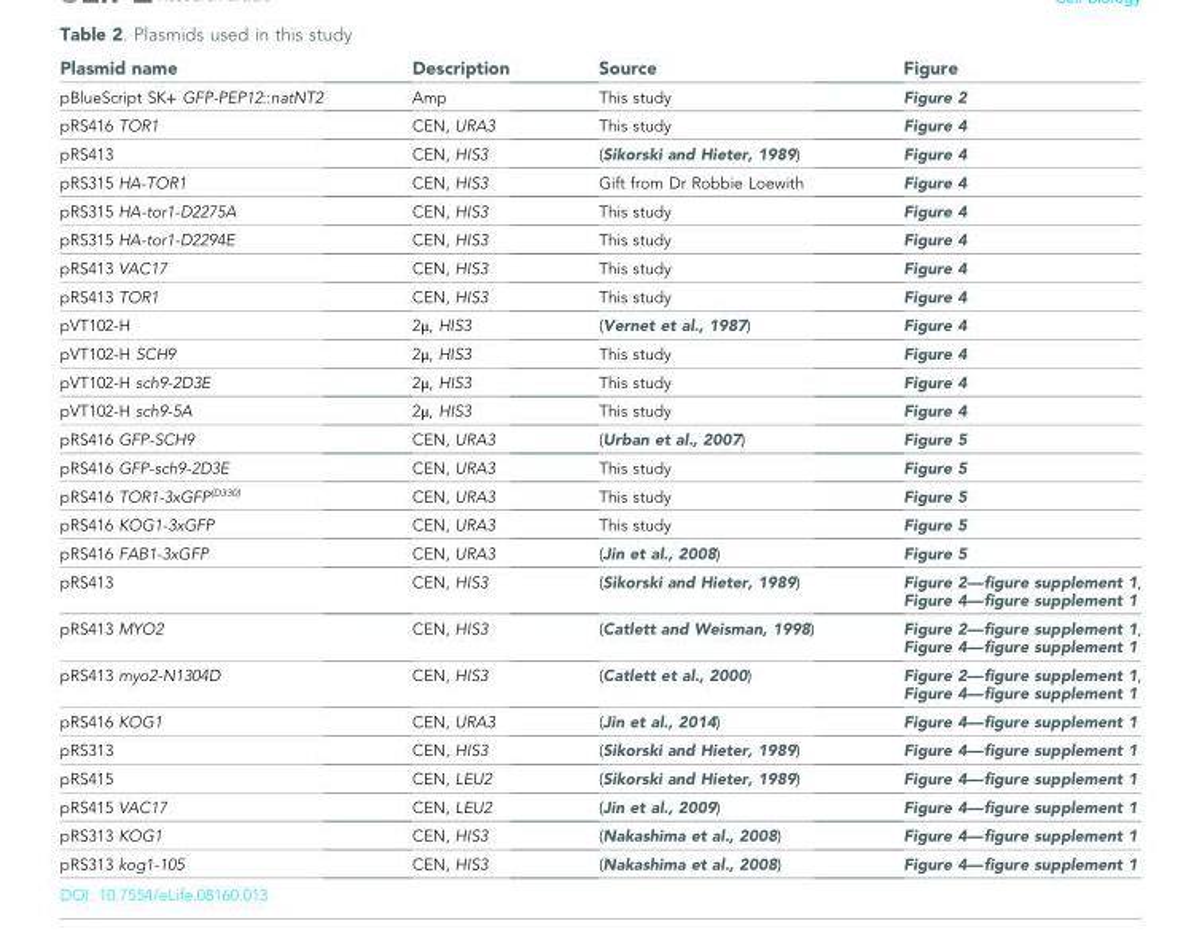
<table><thead><tr><td>Plasmid name</td><td>Description</td><td>Source</td><td>Figure</td></tr></thead><tbody><tr><td>pBlueScript SK+ GFP-PEP12::natNT2</td><td>Amp</td><td>This study</td><td>Figure 2</td></tr><tr><td>pRS416 TOR1</td><td>CEN, URA3</td><td>This study</td><td>Figure 4</td></tr><tr><td>pRS413</td><td>CEN, HIS3</td><td>(Sikorski and Hieter, 1989)</td><td>Figure 4</td></tr><tr><td>pRS315 HA-TOR1</td><td>CEN, HIS3</td><td>Gift from Dr Robbie Loewith</td><td>Figure 4</td></tr><tr><td>pRS315 HA-tor1-D2275A</td><td>CEN, HIS3</td><td>This study</td><td>Figure 4</td></tr><tr><td>pRS315 HA-tor1-D2294E</td><td>CEN, HIS3</td><td>This study</td><td>Figure 4</td></tr><tr><td>pRS413 VAC17</td><td>CEN, HIS3</td><td>This study</td><td>Figure 4</td></tr><tr><td>pRS413 TOR1</td><td>CEN, HIS3</td><td>This study</td><td>Figure 4</td></tr><tr><td>pVT102-H</td><td>2μ, HIS3</td><td>(Vernet et al., 1987)</td><td>Figure 4</td></tr><tr><td>pVT102-H SCH9</td><td>2μ, HIS3</td><td>This study</td><td>Figure 4</td></tr><tr><td>pVT102-H sch9-2D3E</td><td>2μ, HIS3</td><td>This study</td><td>Figure 4</td></tr><tr><td>pVT102-H sch9-5A</td><td>2μ, HIS3</td><td>This study</td><td>Figure 4</td></tr><tr><td>pRS416 GFP-SCH9</td><td>CEN, URA3</td><td>(Urban et al., 2007)</td><td>Figure 5</td></tr><tr><td>pRS416 GFP-sch9-2D3E</td><td>CEN, URA3</td><td>This study</td><td>Figure 5</td></tr><tr><td>pRS416 TOR1-3xGFP<sup>(D330)</sup></td><td>CEN, URA3</td><td>This study</td><td>Figure 5</td></tr><tr><td>pRS416 KOG1-3xGFP</td><td>CEN, URA3</td><td>This study</td><td>Figure 5</td></tr><tr><td>pRS416 FAB1-3xGFP</td><td>CEN, URA3</td><td>(Jin et al., 2008)</td><td>Figure 5</td></tr><tr><td>pRS413</td><td>CEN, HIS3</td><td>(Sikorski and Hieter, 1989)</td><td>Figure 2—figure supplement 1, Figure 4—figure supplement 1</td></tr><tr><td>pRS413 MYO2</td><td>CEN, HIS3</td><td>(Catlett and Weisman, 1998)</td><td>Figure 2—figure supplement 1, Figure 4—figure supplement 1</td></tr><tr><td>pRS413 myo2-N1304D</td><td>CEN, HIS3</td><td>(Catlett et al., 2000)</td><td>Figure 2—figure supplement 1, Figure 4—figure supplement 1</td></tr><tr><td>pRS416 KOG1</td><td>CEN, URA3</td><td>(Jin et al., 2014)</td><td>Figure 4—figure supplement 1</td></tr><tr><td>pRS313</td><td>CEN, HIS3</td><td>(Sikorski and Hieter, 1989)</td><td>Figure 4—figure supplement 1</td></tr><tr><td>pRS415</td><td>CEN, LEU2</td><td>(Sikorski and Hieter, 1989)</td><td>Figure 4—figure supplement 1</td></tr><tr><td>pRS415 VAC17</td><td>CEN, LEU2</td><td>(Jin et al., 2009)</td><td>Figure 4—figure supplement 1</td></tr><tr><td>pRS313 KOG1</td><td>CEN, HIS3</td><td>(Nakashima et al., 2008)</td><td>Figure 4—figure supplement 1</td></tr><tr><td>pRS313 kog1-105</td><td>CEN, HIS3</td><td>(Nakashima et al., 2008)</td><td>Figure 4—figure supplement 1</td></tr></tbody></table>